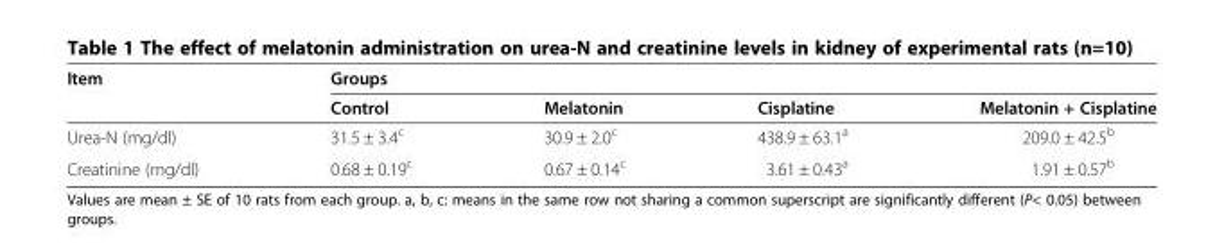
<table><thead><tr><td rowspan="2">Item</td><td colspan="4">Groups</td></tr><tr><td>Control</td><td>Melatonin</td><td>Cisplatine</td><td>Melatonin + Cisplatine</td></tr></thead><tbody><tr><td>Urea-N (mg/dl)</td><td>31.5 ± 3.4<sup>c</sup></td><td>30.9 ± 2.0<sup>c</sup></td><td>438.9 ± 63.1<sup>a</sup></td><td>209.0 ± 42.5<sup>b</sup></td></tr><tr><td>Creatinine (mg/dl)</td><td>0.68 ± 0.19<sup>c</sup></td><td>0.67 ± 0.14<sup>c</sup></td><td>3.61 ± 0.43<sup>a</sup></td><td>1.91 ± 0.57<sup>b</sup></td></tr></tbody></table>